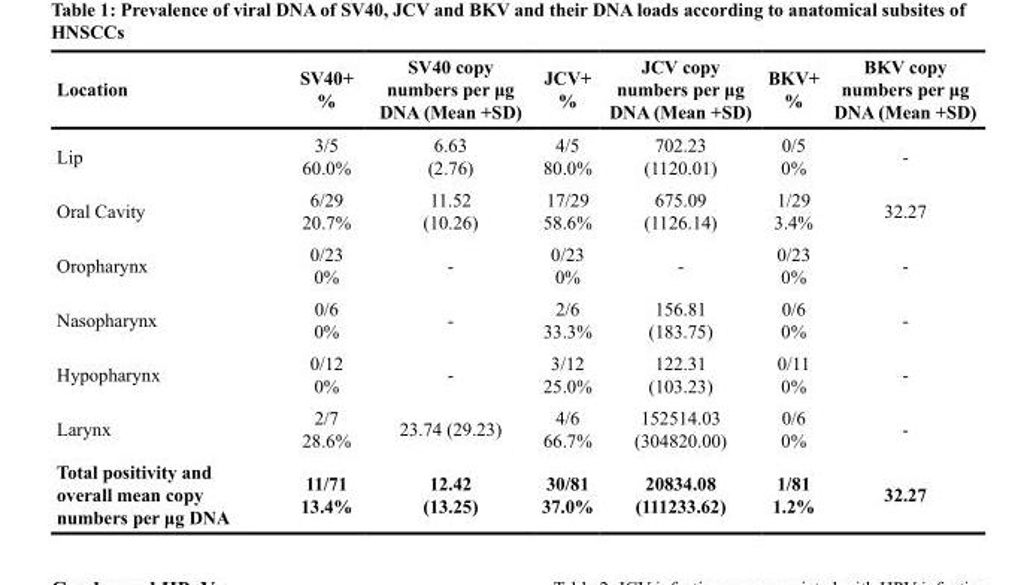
<table><thead><tr><td>Location</td><td>SV40+ %</td><td>SV40 copy numbers per μg DNA (Mean +SD)</td><td>JCV+ %</td><td>JCV copy numbers per μg DNA (Mean +SD)</td><td>BKV+ %</td><td>BKV copy numbers per μg DNA (Mean +SD)</td></tr></thead><tbody><tr><td>Lip</td><td>3/5 60.0%</td><td>6.63 (2.76)</td><td>4/5 80.0%</td><td>702.23 (1120.01)</td><td>0/5 0%</td><td>-</td></tr><tr><td>Oral Cavity</td><td>6/29 20.7%</td><td>11.52 (10.26)</td><td>17/29 58.6%</td><td>675.09 (1126.14)</td><td>1/29 3.4%</td><td>32.27</td></tr><tr><td>Oropharynx</td><td>0/23 0%</td><td>-</td><td>0/23 0%</td><td>-</td><td>0/23 0%</td><td>-</td></tr><tr><td>Nasopharynx</td><td>0/6 0%</td><td>-</td><td>2/6 33.3%</td><td>156.81 (183.75)</td><td>0/6 0%</td><td>-</td></tr><tr><td>Hypopharynx</td><td>0/12 0%</td><td>-</td><td>3/12 25.0%</td><td>122.31 (103.23)</td><td>0/11 0%</td><td>-</td></tr><tr><td>Larynx</td><td>2/7 28.6%</td><td>23.74 (29.23)</td><td>4/6 66.7%</td><td>152514.03 (304820.00)</td><td>0/6 0%</td><td>-</td></tr><tr><td>Total positivity and overall mean copy numbers per μg DNA</td><td>11/71 13.4%</td><td>12.42 (13.25)</td><td>30/81 37.0%</td><td>20834.08 (111233.62)</td><td>1/81 1.2%</td><td>32.27</td></tr></tbody></table>